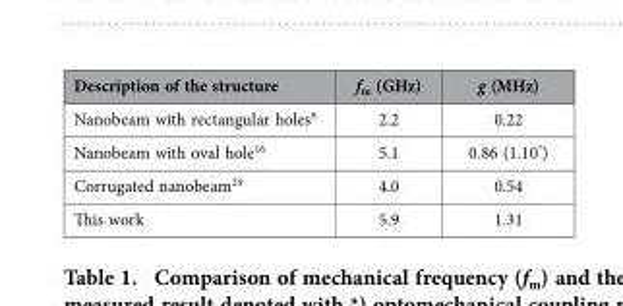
<table><thead><tr><td>Description of the structure</td><td>f<sub>m</sub> (GHz)</td><td>g (MHz)</td></tr></thead><tbody><tr><td>Nanobeam with rectangular holes<sup>9</sup></td><td>2.2</td><td>0.22</td></tr><tr><td>Nanobeam with oval hole<sup>16</sup></td><td>5.1</td><td>0.86 (1.10*)</td></tr><tr><td>Corrugated nanobeam<sup>29</sup></td><td>4.0</td><td>0.54</td></tr><tr><td>This work</td><td>5.9</td><td>1.31</td></tr></tbody></table>